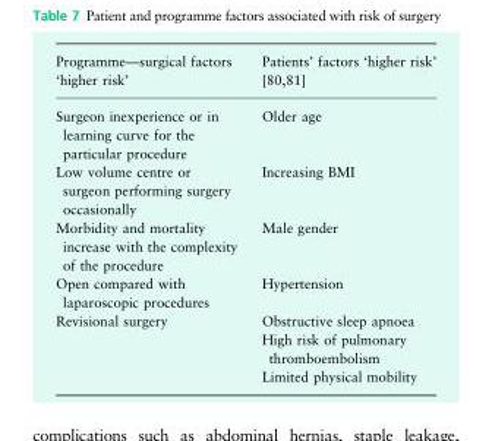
<table><thead><tr><td>Programme—surgical factors ‘higher risk’</td><td>Patients’ factors ‘higher risk’ [80,81]</td></tr></thead><tbody><tr><td>Surgeon inexperience or in learning curve for the particular procedure</td><td>Older age</td></tr><tr><td>Low volume centre or surgeon performing surgery occasionally</td><td>Increasing BMI</td></tr><tr><td>Morbidity and mortality increase with the complexity of the procedure</td><td>Male gender</td></tr><tr><td>Open compared with laparoscopic procedures</td><td>Hypertension</td></tr><tr><td rowspan="3">Revisional surgery</td><td>Obstructive sleep apnoea</td></tr><tr><td>High risk of pulmonary thromboembolism</td></tr><tr><td>Limited physical mobility</td></tr></tbody></table>